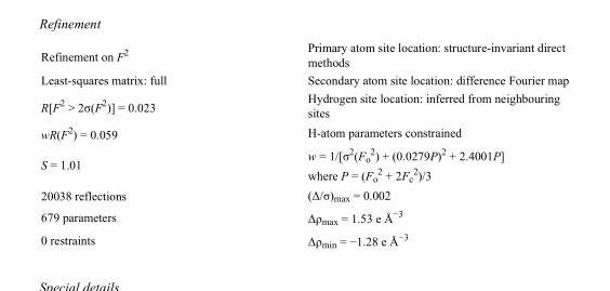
<table><tbody><tr><td>Refinement on F<sup>2</sup></td><td>Primary atom site location: structure-invariant direct methods</td></tr><tr><td>Least-squares matrix: full</td><td>Secondary atom site location: difference Fourier map</td></tr><tr><td>R[F<sup>2</sup> &gt; 2σ(F<sup>2</sup>)] = 0.023</td><td>Hydrogen site location: inferred from neighbouring sites</td></tr><tr><td>wR(F<sup>2</sup>) = 0.059</td><td>H-atom parameters constrained</td></tr><tr><td>S = 1.01</td><td>w = 1/[σ<sup>2</sup>(F<sub>o</sub> <sup>2</sup>) + (0.0279P)<sup>2</sup> + 2.4001P] where P = (F<sub>o</sub> <sup>2</sup> + 2F<sub>c</sub> <sup>2</sup>)/3</td></tr><tr><td>20038 reflections</td><td>(Δ/σ)<sub>max</sub> = 0.002</td></tr><tr><td>679 parameters</td><td>Δρ<sub>max</sub> = 1.53 e Å<sup>−3</sup></td></tr><tr><td>0 restraints</td><td>Δρ<sub>min</sub> = −1.28 e Å<sup>−3</sup></td></tr></tbody></table>